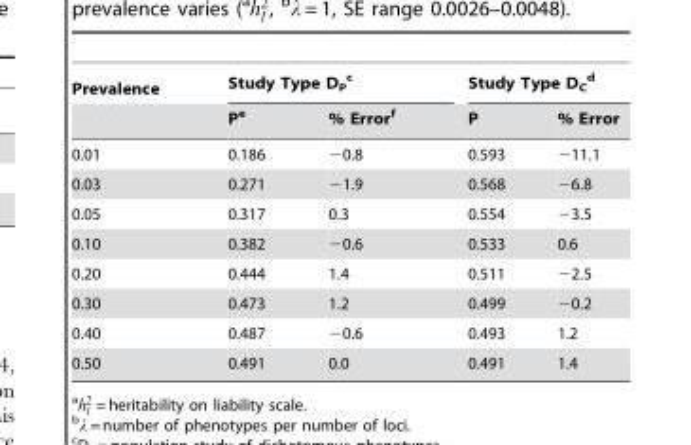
<table><thead><tr><td rowspan="2">Prevalence</td><td colspan="2">Study Type D<sub>P</sub> c</td><td colspan="2">Study Type D<sub>C</sub> d</td></tr><tr><td>P<sup>e</sup></td><td>% Error<sup>f</sup></td><td>P</td><td>% Error</td></tr></thead><tbody><tr><td>0.01</td><td>0.186</td><td>−0.8</td><td>0.593</td><td>−11.1</td></tr><tr><td>0.03</td><td>0.271</td><td>−1.9</td><td>0.568</td><td>−6.8</td></tr><tr><td>0.05</td><td>0.317</td><td>0.3</td><td>0.554</td><td>−3.5</td></tr><tr><td>0.10</td><td>0.382</td><td>−0.6</td><td>0.533</td><td>0.6</td></tr><tr><td>0.20</td><td>0.444</td><td>1.4</td><td>0.511</td><td>−2.5</td></tr><tr><td>0.30</td><td>0.473</td><td>1.2</td><td>0.499</td><td>−0.2</td></tr><tr><td>0.40</td><td>0.487</td><td>−0.6</td><td>0.493</td><td>1.2</td></tr><tr><td>0.50</td><td>0.491</td><td>0.0</td><td>0.491</td><td>1.4</td></tr></tbody></table>